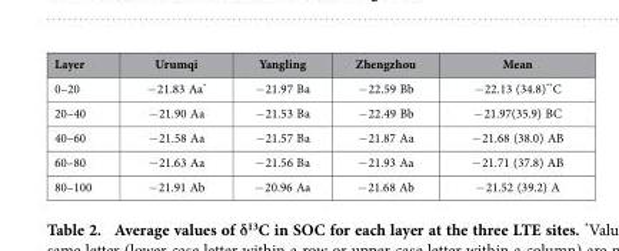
<table><thead><tr><td>Layer</td><td>Urumqi</td><td>Yangling</td><td>Zhengzhou</td><td>Mean</td></tr></thead><tbody><tr><td>0–20</td><td>− 21.83 Aa*</td><td>− 21.97 Ba</td><td>− 22.59 Bb</td><td>− 22.13 (34.8)**C</td></tr><tr><td>20–40</td><td>− 21.90 Aa</td><td>− 21.53 Ba</td><td>− 22.49 Bb</td><td>− 21.97(35.9) BC</td></tr><tr><td>40–60</td><td>− 21.58 Aa</td><td>− 21.57 Ba</td><td>− 21.87 Aa</td><td>− 21.68 (38.0) AB</td></tr><tr><td>60–80</td><td>− 21.63 Aa</td><td>− 21.56 Ba</td><td>− 21.93 Aa</td><td>− 21.71 (37.8) AB</td></tr><tr><td>80–100</td><td>− 21.91 Ab</td><td>− 20.96 Aa</td><td>− 21.68 Ab</td><td>− 21.52 (39.2) A</td></tr></tbody></table>